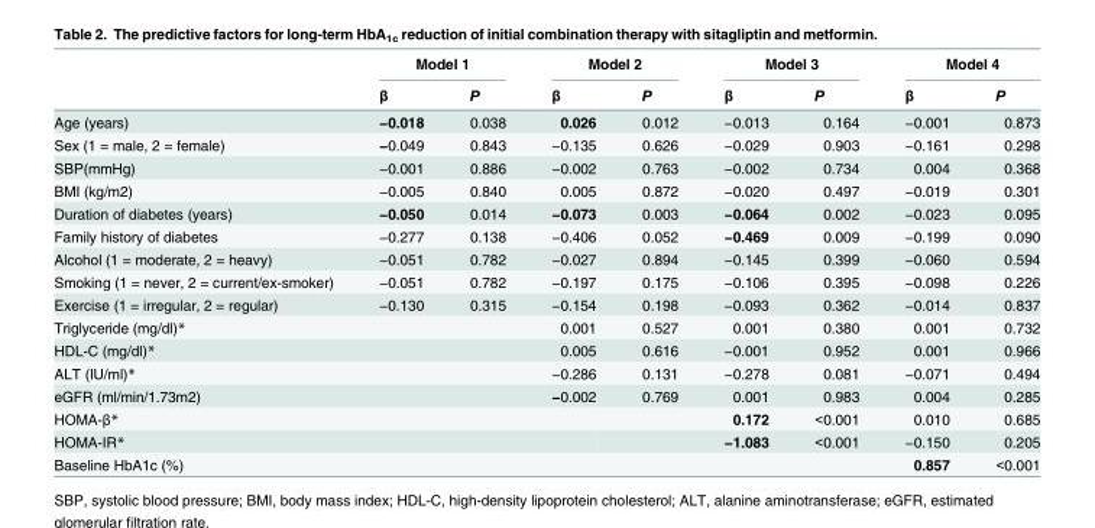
<table><thead><tr><td rowspan="2"></td><td colspan="2">Model 1</td><td colspan="2">Model 2</td><td colspan="2">Model 3</td><td colspan="2">Model 4</td></tr><tr><td>β</td><td>P</td><td>β</td><td>P</td><td>β</td><td>P</td><td>β</td><td>P</td></tr></thead><tbody><tr><td>Age (years)</td><td>−0.018</td><td>0.038</td><td>0.026</td><td>0.012</td><td>−0.013</td><td>0.164</td><td>−0.001</td><td>0.873</td></tr><tr><td>Sex (1 = male, 2 = female)</td><td>−0.049</td><td>0.843</td><td>−0.135</td><td>0.626</td><td>−0.029</td><td>0.903</td><td>−0.161</td><td>0.298</td></tr><tr><td>SBP(mmHg)</td><td>−0.001</td><td>0.886</td><td>−0.002</td><td>0.763</td><td>−0.002</td><td>0.734</td><td>0.004</td><td>0.368</td></tr><tr><td>BMI (kg/m2)</td><td>−0.005</td><td>0.840</td><td>0.005</td><td>0.872</td><td>−0.020</td><td>0.497</td><td>−0.019</td><td>0.301</td></tr><tr><td>Duration of diabetes (years)</td><td>−0.050</td><td>0.014</td><td>−0.073</td><td>0.003</td><td>−0.064</td><td>0.002</td><td>−0.023</td><td>0.095</td></tr><tr><td>Family history of diabetes</td><td>−0.277</td><td>0.138</td><td>−0.406</td><td>0.052</td><td>−0.469</td><td>0.009</td><td>−0.199</td><td>0.090</td></tr><tr><td>Alcohol (1 = moderate, 2 = heavy)</td><td>−0.051</td><td>0.782</td><td>−0.027</td><td>0.894</td><td>−0.145</td><td>0.399</td><td>−0.060</td><td>0.594</td></tr><tr><td>Smoking (1 = never, 2 = current/ex-smoker)</td><td>−0.051</td><td>0.782</td><td>−0.197</td><td>0.175</td><td>−0.106</td><td>0.395</td><td>−0.098</td><td>0.226</td></tr><tr><td>Exercise (1 = irregular, 2 = regular)</td><td>−0.130</td><td>0.315</td><td>−0.154</td><td>0.198</td><td>−0.093</td><td>0.362</td><td>−0.014</td><td>0.837</td></tr><tr><td>Triglyceride (mg/dl)*</td><td></td><td></td><td>0.001</td><td>0.527</td><td>0.001</td><td>0.380</td><td>0.001</td><td>0.732</td></tr><tr><td>HDL-C (mg/dl)*</td><td></td><td></td><td>0.005</td><td>0.616</td><td>−0.001</td><td>0.952</td><td>0.001</td><td>0.966</td></tr><tr><td>ALT (IU/ml)*</td><td></td><td></td><td>−0.286</td><td>0.131</td><td>−0.278</td><td>0.081</td><td>−0.071</td><td>0.494</td></tr><tr><td>eGFR (ml/min/1.73m2)</td><td></td><td></td><td>−0.002</td><td>0.769</td><td>0.001</td><td>0.983</td><td>0.004</td><td>0.285</td></tr><tr><td>HOMA-β*</td><td></td><td></td><td></td><td></td><td>0.172</td><td>&lt;0.001</td><td>0.010</td><td>0.685</td></tr><tr><td>HOMA-IR*</td><td></td><td></td><td></td><td></td><td>−1.083</td><td>&lt;0.001</td><td>−0.150</td><td>0.205</td></tr><tr><td>Baseline HbA1c (%)</td><td></td><td></td><td></td><td></td><td></td><td></td><td>0.857</td><td>&lt;0.001</td></tr></tbody></table>